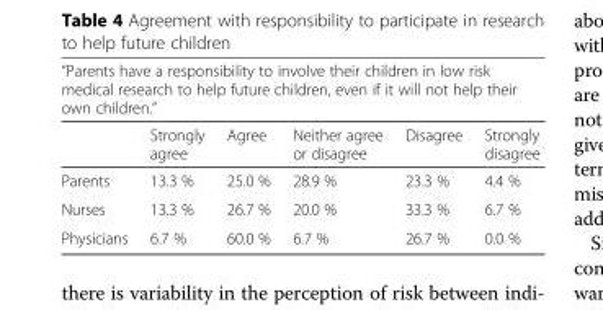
<table><thead><tr><td colspan="6">“Parents have a responsibility to involve their children in low risk medical research to help future children, even if it will not help their own children.”</td></tr><tr><td></td><td>Strongly agree</td><td>Agree</td><td>Neither agree or disagree</td><td>Disagree</td><td>Strongly disagree</td></tr></thead><tbody><tr><td>Parents</td><td>13.3 %</td><td>25.0 %</td><td>28.9 %</td><td>23.3 %</td><td>4.4 %</td></tr><tr><td>Nurses</td><td>13.3 %</td><td>26.7 %</td><td>20.0 %</td><td>33.3 %</td><td>6.7 %</td></tr><tr><td>Physicians</td><td>6.7 %</td><td>60.0 %</td><td>6.7 %</td><td>26.7 %</td><td>0.0 %</td></tr></tbody></table>